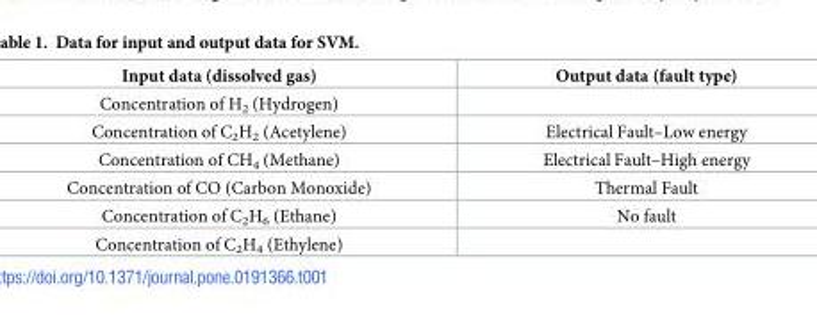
<table><thead><tr><td>Input data (dissolved gas)</td><td>Output data (fault type)</td></tr></thead><tbody><tr><td colspan="2">Concentration of H<sub>2</sub> (Hydrogen)</td></tr><tr><td>Concentration of C<sub>2</sub>H<sub>2</sub> (Acetylene)</td><td>Electrical Fault–Low energy</td></tr><tr><td>Concentration of CH<sub>4</sub> (Methane)</td><td>Electrical Fault–High energy</td></tr><tr><td>Concentration of CO (Carbon Monoxide)</td><td>Thermal Fault</td></tr><tr><td>Concentration of C<sub>2</sub>H<sub>6</sub> (Ethane)</td><td>No fault</td></tr><tr><td>Concentration of C<sub>2</sub>H<sub>4</sub> (Ethylene)</td><td></td></tr></tbody></table>